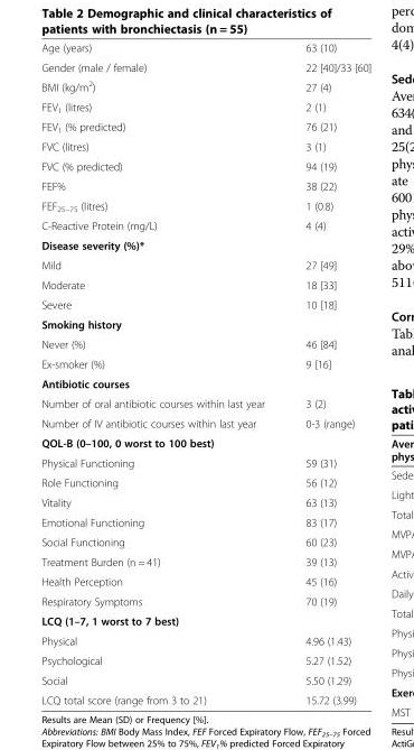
<table><tbody><tr><td>Age (years)</td><td>63 (10)</td></tr><tr><td>Gender (male / female)</td><td>22 [40]/33 [60]</td></tr><tr><td>BMI (kg/m<sup>2</sup>)</td><td>27 (4)</td></tr><tr><td>FEV<sub>1</sub> (litres)</td><td>2 (1)</td></tr><tr><td>FEV<sub>1</sub> (% predicted)</td><td>76 (21)</td></tr><tr><td>FVC (litres)</td><td>3 (1)</td></tr><tr><td>FVC (% predicted)</td><td>94 (19)</td></tr><tr><td>FEF%</td><td>38 (22)</td></tr><tr><td>FEF<sub>25–75</sub> (litres)</td><td>1 (0.8)</td></tr><tr><td>C-Reactive Protein (mg/L)</td><td>4 (4)</td></tr><tr><td colspan="2">Disease severity (%)*</td></tr><tr><td>Mild</td><td>27 [49]</td></tr><tr><td>Moderate</td><td>18 [33]</td></tr><tr><td>Severe</td><td>10 [18]</td></tr><tr><td colspan="2">Smoking history</td></tr><tr><td>Never (%)</td><td>46 [84]</td></tr><tr><td>Ex-smoker (%)</td><td>9 [16]</td></tr><tr><td colspan="2">Antibiotic courses</td></tr><tr><td>Number of oral antibiotic courses within last year</td><td>3 (2)</td></tr><tr><td>Number of IV antibiotic courses within last year</td><td>0-3 (range)</td></tr><tr><td colspan="2">QOL-B (0–100, 0 worst to 100 best)</td></tr><tr><td>Physical Functioning</td><td>59 (31)</td></tr><tr><td>Role Functioning</td><td>56 (12)</td></tr><tr><td>Vitality</td><td>63 (13)</td></tr><tr><td>Emotional Functioning</td><td>83 (17)</td></tr><tr><td>Social Functioning</td><td>60 (23)</td></tr><tr><td>Treatment Burden (n = 41)</td><td>39 (13)</td></tr><tr><td>Health Perception</td><td>45 (16)</td></tr><tr><td>Respiratory Symptoms</td><td>70 (19)</td></tr><tr><td colspan="2">LCQ (1–7, 1 worst to 7 best)</td></tr><tr><td>Physical</td><td>4.96 (1.43)</td></tr><tr><td>Psychological</td><td>5.27 (1.52)</td></tr><tr><td>Social</td><td>5.50 (1.29)</td></tr><tr><td>LCQ total score (range from 3 to 21)</td><td>15.72 (3.99)</td></tr></tbody></table>